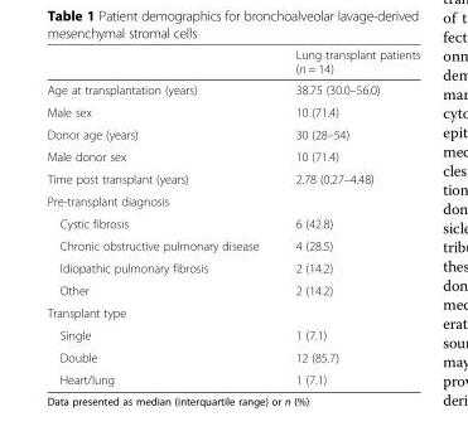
<table><thead><tr><td></td><td>Lung transplant patients (n = 14)</td></tr></thead><tbody><tr><td>Age at transplantation (years)</td><td>38.75 (30.0–56.0)</td></tr><tr><td>Male sex</td><td>10 (71.4)</td></tr><tr><td>Donor age (years)</td><td>30 (28–54)</td></tr><tr><td>Male donor sex</td><td>10 (71.4)</td></tr><tr><td>Time post transplant (years)</td><td>2.78 (0.27–4.48)</td></tr><tr><td colspan="2">Pre-transplant diagnosis</td></tr><tr><td>Cystic fibrosis</td><td>6 (42.8)</td></tr><tr><td>Chronic obstructive pulmonary disease</td><td>4 (28.5)</td></tr><tr><td>Idiopathic pulmonary fibrosis</td><td>2 (14.2)</td></tr><tr><td>Other</td><td>2 (14.2)</td></tr><tr><td colspan="2">Transplant type</td></tr><tr><td>Single</td><td>1 (7.1)</td></tr><tr><td>Double</td><td>12 (85.7)</td></tr><tr><td>Heart/lung</td><td>1 (7.1)</td></tr></tbody></table>